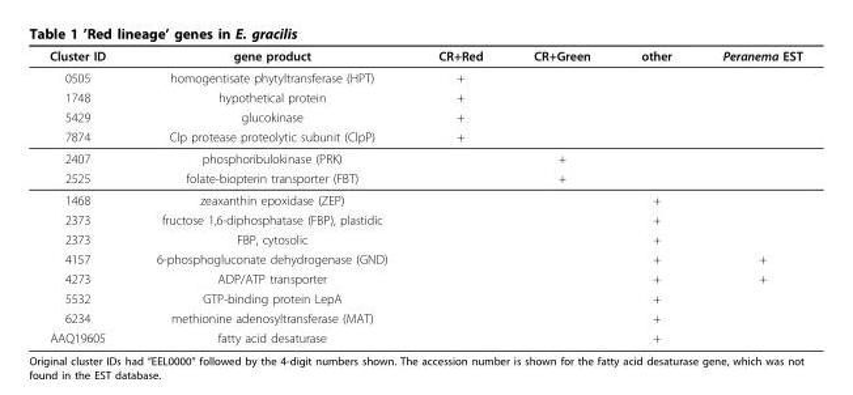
<table><thead><tr><td>Cluster ID</td><td>gene product</td><td>CR+Red</td><td>CR+Green</td><td>other</td><td>Peranema EST</td></tr></thead><tbody><tr><td>0505</td><td>homogentisate phytyltransferase (HPT)</td><td>+</td><td></td><td></td><td></td></tr><tr><td>1748</td><td>hypothetical protein</td><td>+</td><td></td><td></td><td></td></tr><tr><td>5429</td><td>glucokinase</td><td>+</td><td></td><td></td><td></td></tr><tr><td>7874</td><td>Clp protease proteolytic subunit (ClpP)</td><td>+</td><td></td><td></td><td></td></tr><tr><td>2407</td><td>phosphoribulokinase (PRK)</td><td></td><td>+</td><td></td><td></td></tr><tr><td>2525</td><td>folate-biopterin transporter (FBT)</td><td></td><td>+</td><td></td><td></td></tr><tr><td>1468</td><td>zeaxanthin epoxidase (ZEP)</td><td></td><td></td><td>+</td><td></td></tr><tr><td>2373</td><td>fructose 1,6-diphosphatase (FBP), plastidic</td><td></td><td></td><td>+</td><td></td></tr><tr><td>2373</td><td>FBP, cytosolic</td><td></td><td></td><td>+</td><td></td></tr><tr><td>4157</td><td>6-phosphogluconate dehydrogenase (GND)</td><td></td><td></td><td>+</td><td>+</td></tr><tr><td>4273</td><td>ADP/ATP transporter</td><td></td><td></td><td>+</td><td>+</td></tr><tr><td>5532</td><td>GTP-binding protein LepA</td><td></td><td></td><td>+</td><td></td></tr><tr><td>6234</td><td>methionine adenosyltransferase (MAT)</td><td></td><td></td><td>+</td><td></td></tr><tr><td>AAQ19605</td><td>fatty acid desaturase</td><td></td><td></td><td>+</td><td></td></tr></tbody></table>